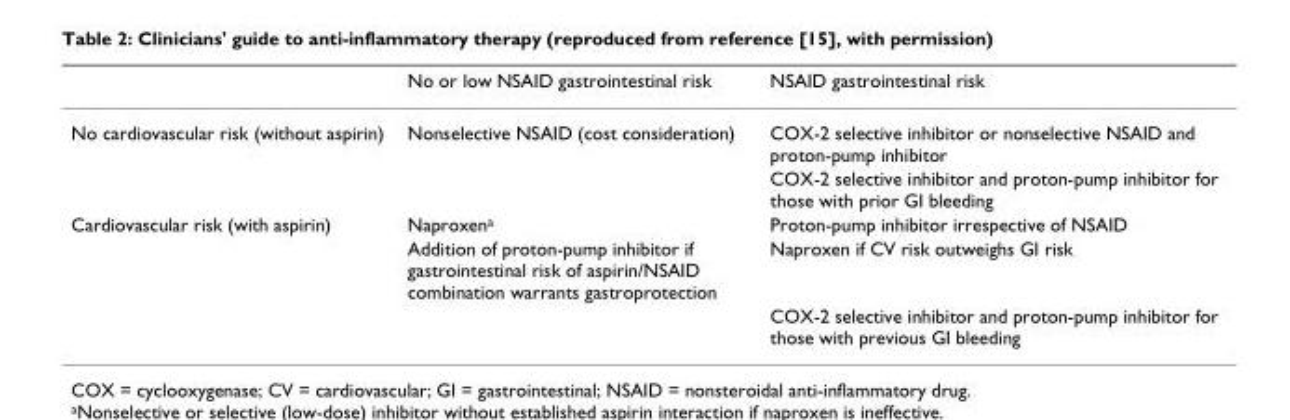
<table><thead><tr><td></td><td>No or low NSAID gastrointestinal risk</td><td>NSAID gastrointestinal risk</td></tr></thead><tbody><tr><td rowspan="2">No cardiovascular risk (without aspirin)</td><td>Nonselective NSAID (cost consideration)</td><td>COX-2 selective inhibitor or nonselective NSAID and proton-pump inhibitor</td></tr><tr><td></td><td>COX-2 selective inhibitor and proton-pump inhibitor for those with prior GI bleeding</td></tr><tr><td rowspan="3">Cardiovascular risk (with aspirin)</td><td>Naproxen<sup>a</sup></td><td>Proton-pump inhibitor irrespective of NSAID</td></tr><tr><td>Addition of proton-pump inhibitor if gastrointestinal risk of aspirin/NSAID combination warrants gastroprotection</td><td>Naproxen if CV risk outweighs GI risk</td></tr><tr><td></td><td>COX-2 selective inhibitor and proton-pump inhibitor for those with previous GI bleeding</td></tr></tbody></table>